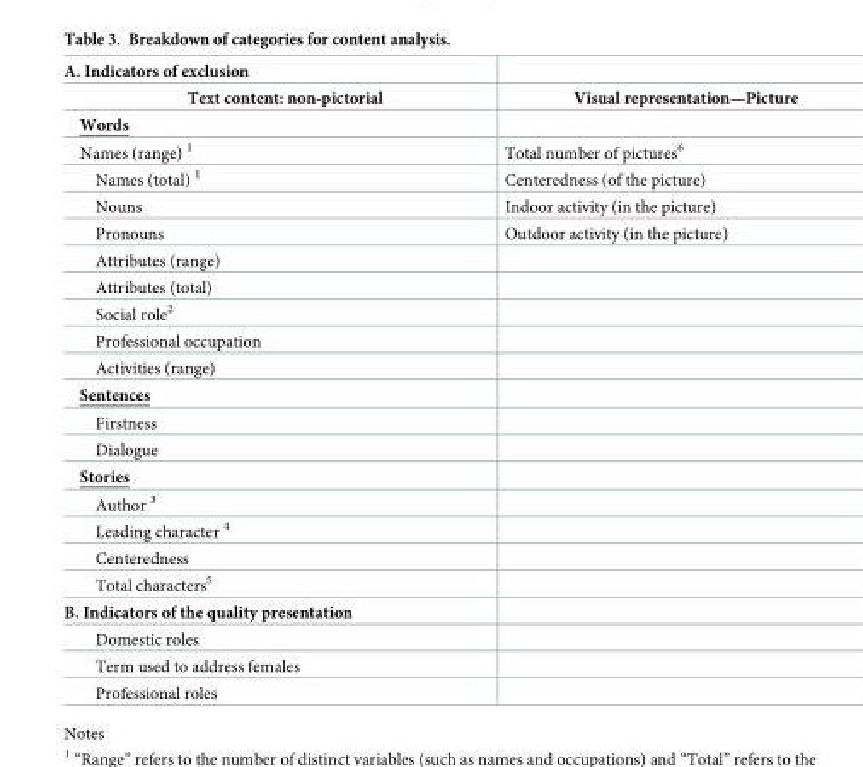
<table><tbody><tr><td colspan="2">A. Indicators of exclusion</td></tr><tr><td>Text content: non-pictorial</td><td>Visual representation—Picture</td></tr><tr><td colspan="2">Words</td></tr><tr><td>Names (range) <sup>1</sup></td><td>Total number of pictures<sup>6</sup></td></tr><tr><td>Names (total) <sup>1</sup></td><td>Centeredness (of the picture)</td></tr><tr><td>Nouns</td><td>Indoor activity (in the picture)</td></tr><tr><td>Pronouns</td><td>Outdoor activity (in the picture)</td></tr><tr><td colspan="2">Attributes (range)</td></tr><tr><td colspan="2">Attributes (total)</td></tr><tr><td colspan="2">Social role<sup>2</sup></td></tr><tr><td colspan="2">Professional occupation</td></tr><tr><td colspan="2">Activities (range)</td></tr><tr><td colspan="2">Sentences</td></tr><tr><td colspan="2">Firstness</td></tr><tr><td colspan="2">Dialogue</td></tr><tr><td colspan="2">Stories</td></tr><tr><td colspan="2">Author <sup>3</sup></td></tr><tr><td colspan="2">Leading character <sup>4</sup></td></tr><tr><td colspan="2">Centeredness</td></tr><tr><td colspan="2">Total characters<sup>5</sup></td></tr><tr><td colspan="2">B. Indicators of the quality presentation</td></tr><tr><td colspan="2">Domestic roles</td></tr><tr><td colspan="2">Term used to address females</td></tr><tr><td>Professional roles</td><td></td></tr></tbody></table>